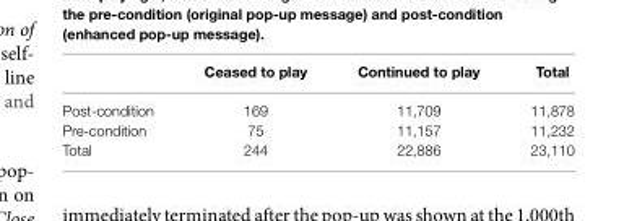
<table><thead><tr><td></td><td>Ceased to play</td><td>Continued to play</td><td>Total</td></tr></thead><tbody><tr><td>Post-condition</td><td>169</td><td>11,709</td><td>11,878</td></tr><tr><td>Pre-condition</td><td>75</td><td>11,157</td><td>11,232</td></tr><tr><td>Total</td><td>244</td><td>22,886</td><td>23,110</td></tr></tbody></table>